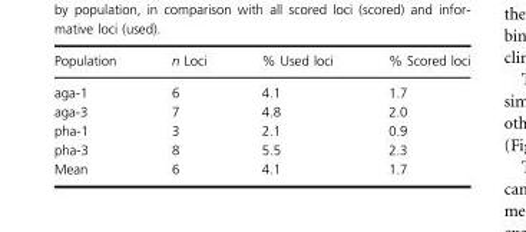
<table><thead><tr><td>Population</td><td>n Loci</td><td>% Used loci</td><td>% Scored loci</td></tr></thead><tbody><tr><td>aga-1</td><td>6</td><td>4.1</td><td>1.7</td></tr><tr><td>aga-3</td><td>7</td><td>4.8</td><td>2.0</td></tr><tr><td>pha-1</td><td>3</td><td>2.1</td><td>0.9</td></tr><tr><td>pha-3</td><td>8</td><td>5.5</td><td>2.3</td></tr><tr><td>Mean</td><td>6</td><td>4.1</td><td>1.7</td></tr></tbody></table>